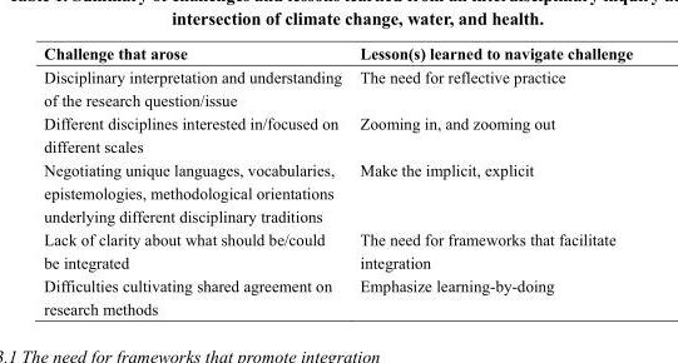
<table><thead><tr><td>Challenge that arose</td><td>Lesson(s) learned to navigate challenge</td></tr></thead><tbody><tr><td>Disciplinary interpretation and understanding of the research question/issue</td><td>The need for reflective practice</td></tr><tr><td>Different disciplines interested in/focused on different scales</td><td>Zooming in, and zooming out</td></tr><tr><td>Negotiating unique languages, vocabularies, epistemologies, methodological orientations underlying different disciplinary traditions</td><td>Make the implicit, explicit</td></tr><tr><td>Lack of clarity about what should be/could be integrated</td><td>The need for frameworks that facilitate integration</td></tr><tr><td>Difficulties cultivating shared agreement on research methods</td><td>Emphasize learning-by-doing</td></tr></tbody></table>